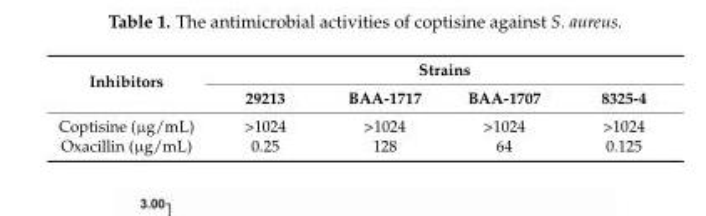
<table><thead><tr><td rowspan="2">Inhibitors</td><td colspan="4">Strains</td></tr><tr><td>29213</td><td>BAA-1717</td><td>BAA-1707</td><td>8325-4</td></tr></thead><tbody><tr><td>Coptisine (µg/mL)</td><td>&gt;1024</td><td>&gt;1024</td><td>&gt;1024</td><td>&gt;1024</td></tr><tr><td>Oxacillin (µg/mL)</td><td>0.25</td><td>128</td><td>64</td><td>0.125</td></tr></tbody></table>